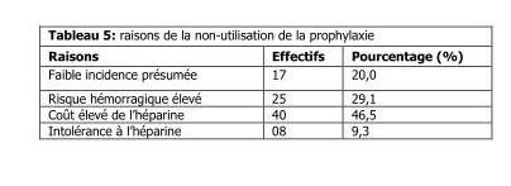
<table><thead><tr><td>Raisons</td><td>Effectifs</td><td>Pourcentage (%)</td></tr></thead><tbody><tr><td>Faible incidence présumée</td><td>17</td><td>20,0</td></tr><tr><td>Risque hémorragique élevé</td><td>25</td><td>29,1</td></tr><tr><td>Coût élevé de l’héparine</td><td>40</td><td>46,5</td></tr><tr><td>Intolérance à l’héparine</td><td>08</td><td>9,3</td></tr></tbody></table>